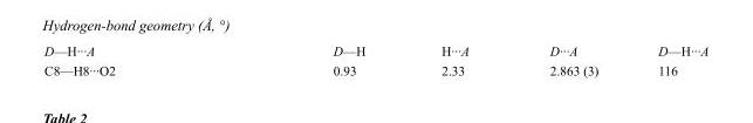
<table><tbody><tr><td>D—H···A</td><td>D—H</td><td>H···A</td><td>D···A</td><td>D—H···A</td></tr><tr><td>C8—H8···O2</td><td>0.93</td><td>2.33</td><td>2.863 (3)</td><td>116</td></tr></tbody></table>